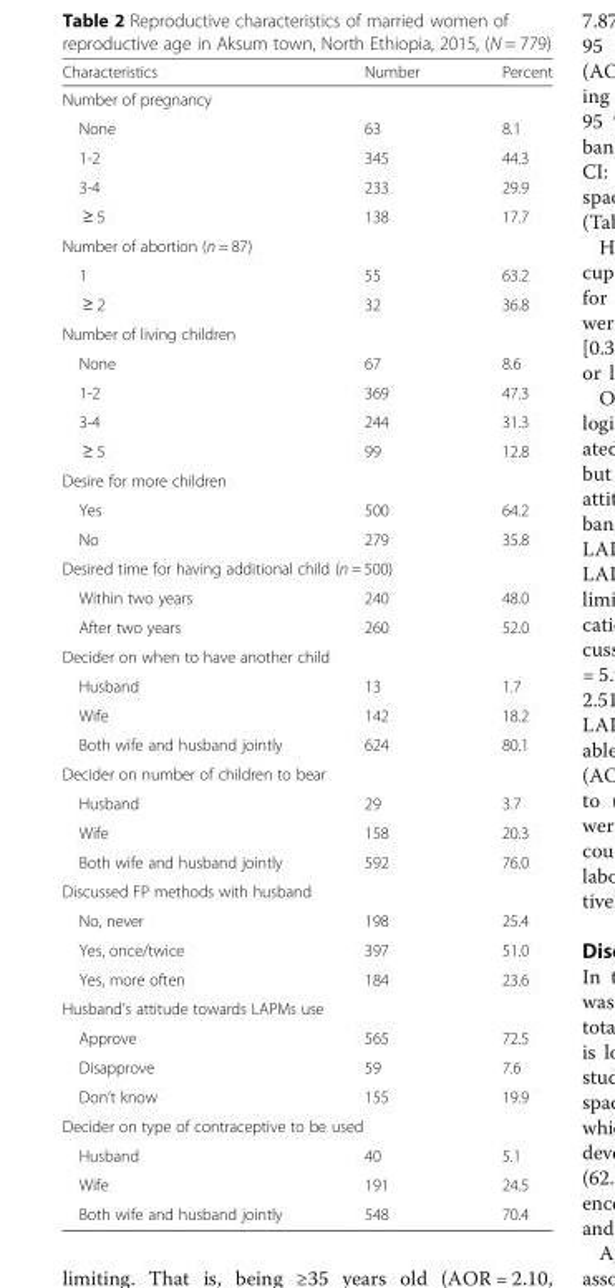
<table><thead><tr><td>Characteristics</td><td>Number</td><td>Percent</td></tr></thead><tbody><tr><td colspan="3">Number of pregnancy</td></tr><tr><td>None</td><td>63</td><td>8.1</td></tr><tr><td>1-2</td><td>345</td><td>44.3</td></tr><tr><td>3-4</td><td>233</td><td>29.9</td></tr><tr><td>≥ 5</td><td>138</td><td>17.7</td></tr><tr><td colspan="3">Number of abortion (n = 87)</td></tr><tr><td>1</td><td>55</td><td>63.2</td></tr><tr><td>≥ 2</td><td>32</td><td>36.8</td></tr><tr><td colspan="3">Number of living children</td></tr><tr><td>None</td><td>67</td><td>8.6</td></tr><tr><td>1-2</td><td>369</td><td>47.3</td></tr><tr><td>3-4</td><td>244</td><td>31.3</td></tr><tr><td>≥ 5</td><td>99</td><td>12.8</td></tr><tr><td colspan="3">Desire for more children</td></tr><tr><td>Yes</td><td>500</td><td>64.2</td></tr><tr><td>No</td><td>279</td><td>35.8</td></tr><tr><td colspan="3">Desired time for having additional child (n = 500)</td></tr><tr><td>Within two years</td><td>240</td><td>48.0</td></tr><tr><td>After two years</td><td>260</td><td>52.0</td></tr><tr><td colspan="3">Decider on when to have another child</td></tr><tr><td>Husband</td><td>13</td><td>1.7</td></tr><tr><td>Wife</td><td>142</td><td>18.2</td></tr><tr><td>Both wife and husband jointly</td><td>624</td><td>80.1</td></tr><tr><td colspan="3">Decider on number of children to bear</td></tr><tr><td>Husband</td><td>29</td><td>3.7</td></tr><tr><td>Wife</td><td>158</td><td>20.3</td></tr><tr><td>Both wife and husband jointly</td><td>592</td><td>76.0</td></tr><tr><td colspan="3">Discussed FP methods with husband</td></tr><tr><td>No, never</td><td>198</td><td>25.4</td></tr><tr><td>Yes, once/twice</td><td>397</td><td>51.0</td></tr><tr><td>Yes, more often</td><td>184</td><td>23.6</td></tr><tr><td colspan="3">Husband’s attitude towards LAPMs use</td></tr><tr><td>Approve</td><td>565</td><td>72.5</td></tr><tr><td>Disapprove</td><td>59</td><td>7.6</td></tr><tr><td>Don’t know</td><td>155</td><td>19.9</td></tr><tr><td colspan="3">Decider on type of contraceptive to be used</td></tr><tr><td>Husband</td><td>40</td><td>5.1</td></tr><tr><td>Wife</td><td>191</td><td>24.5</td></tr><tr><td>Both wife and husband jointly</td><td>548</td><td>70.4</td></tr></tbody></table>